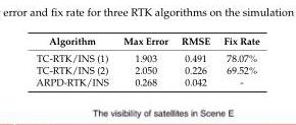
<table><thead><tr><td>Algorithm</td><td>Max Error</td><td>RMSE</td><td>Fix Rate</td></tr></thead><tbody><tr><td>TC-RTK/INS (1)</td><td>1.903</td><td>0.491</td><td>78.07%</td></tr><tr><td>TC-RTK/INS (2)</td><td>2.050</td><td>0.226</td><td>69.52%</td></tr><tr><td>ARPD-RTK/INS</td><td>0.268</td><td>0.042</td><td>-</td></tr></tbody></table>